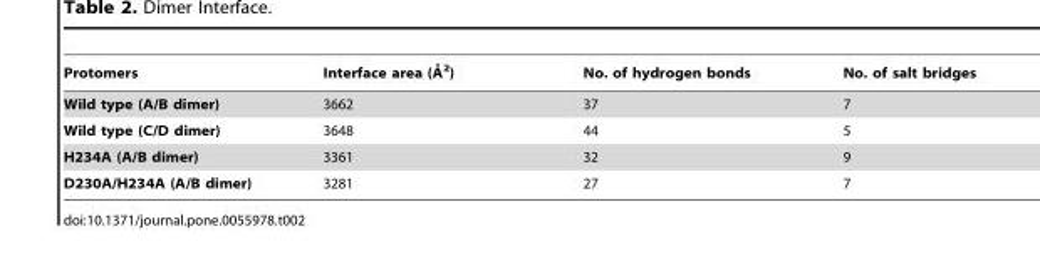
<table><thead><tr><td>Protomers</td><td>Interface area (A˚ 2)</td><td>No. of hydrogen bonds</td><td>No. of salt bridges</td></tr></thead><tbody><tr><td>Wild type (A/B dimer)</td><td>3662</td><td>37</td><td>7</td></tr><tr><td>Wild type (C/D dimer)</td><td>3648</td><td>44</td><td>5</td></tr><tr><td>H234A (A/B dimer)</td><td>3361</td><td>32</td><td>9</td></tr><tr><td>D230A/H234A (A/B dimer)</td><td>3281</td><td>27</td><td>7</td></tr></tbody></table>